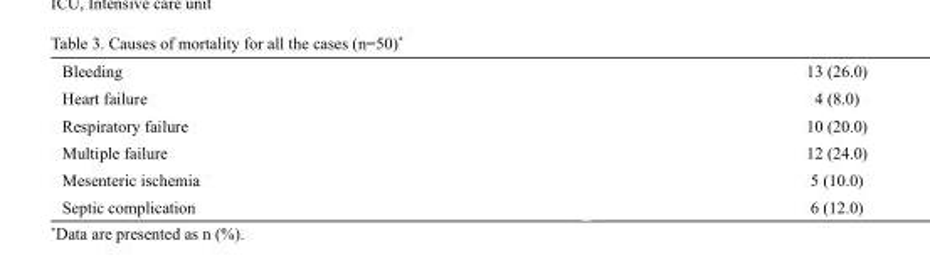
<table><tbody><tr><td>Bleeding</td><td>13 (26.0)</td></tr><tr><td>Heart failure</td><td>4 (8.0)</td></tr><tr><td>Respiratory failure</td><td>10 (20.0)</td></tr><tr><td>Multiple failure</td><td>12 (24.0)</td></tr><tr><td>Mesenteric ischemia</td><td>5 (10.0)</td></tr><tr><td>Septic complication</td><td>6 (12.0)</td></tr></tbody></table>